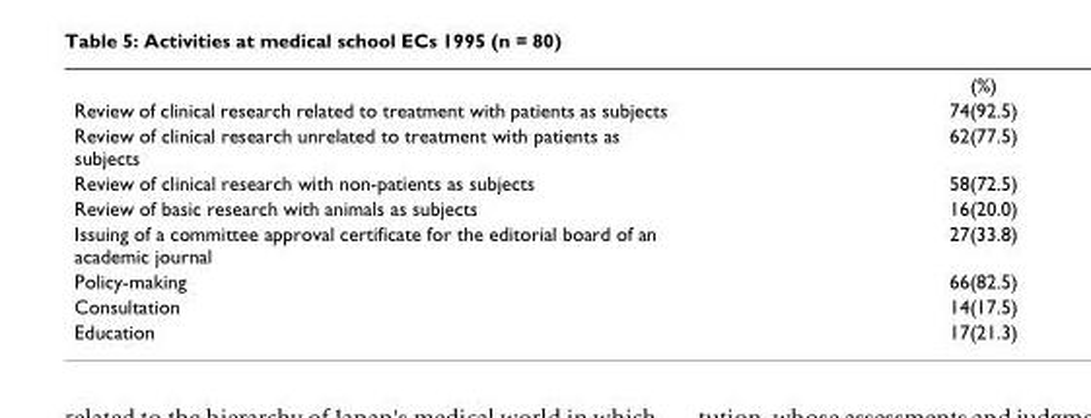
<table><thead><tr><td></td><td>(%)</td></tr></thead><tbody><tr><td>Review of clinical research related to treatment with patients as subjects</td><td>74(92.5)</td></tr><tr><td>Review of clinical research unrelated to treatment with patients as subjects</td><td>62(77.5)</td></tr><tr><td>Review of clinical research with non-patients as subjects</td><td>58(72.5)</td></tr><tr><td>Review of basic research with animals as subjects</td><td>16(20.0)</td></tr><tr><td>Issuing of a committee approval certificate for the editorial board of an academic journal</td><td>27(33.8)</td></tr><tr><td>Policy-making</td><td>66(82.5)</td></tr><tr><td>Consultation</td><td>14(17.5)</td></tr><tr><td>Education</td><td>17(21.3)</td></tr></tbody></table>